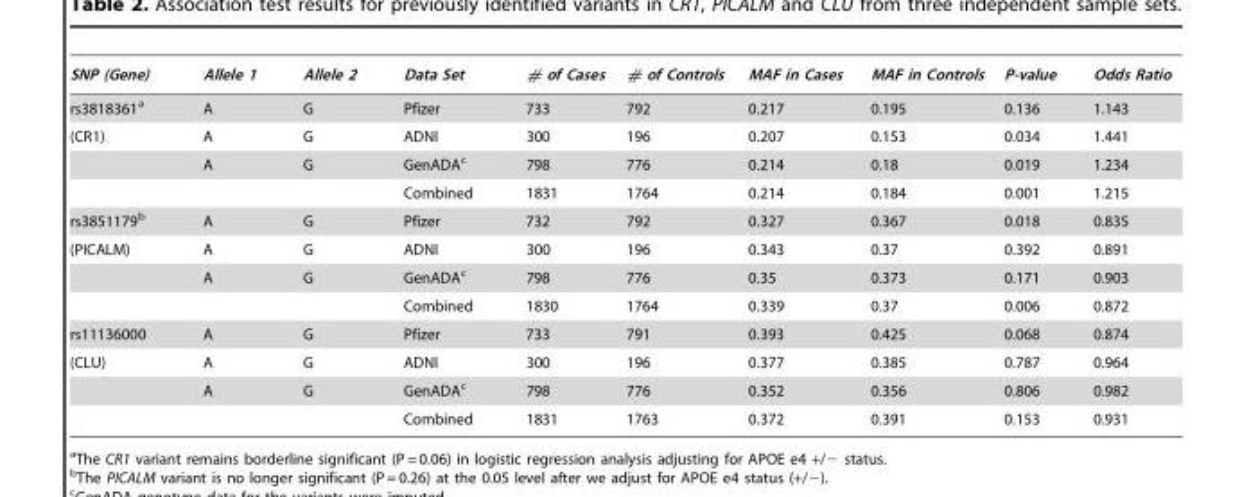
<table><thead><tr><td>SNP (Gene)</td><td>Allele 1</td><td>Allele 2</td><td>Data Set</td><td># of Cases</td><td># of Controls</td><td>MAF in Cases</td><td>MAF in Controls</td><td>P-value</td><td>Odds Ratio</td></tr></thead><tbody><tr><td>rs3818361<sup>a</sup></td><td>A</td><td>G</td><td>Pfizer</td><td>733</td><td>792</td><td>0.217</td><td>0.195</td><td>0.136</td><td>1.143</td></tr><tr><td rowspan="3">(CR1)</td><td>A</td><td>G</td><td>ADNI</td><td>300</td><td>196</td><td>0.207</td><td>0.153</td><td>0.034</td><td>1.441</td></tr><tr><td>A</td><td>G</td><td>GenADA<sup>c</sup></td><td>798</td><td>776</td><td>0.214</td><td>0.18</td><td>0.019</td><td>1.234</td></tr><tr><td></td><td></td><td>Combined</td><td>1831</td><td>1764</td><td>0.214</td><td>0.184</td><td>0.001</td><td>1.215</td></tr><tr><td>rs3851179<sup>b</sup></td><td>A</td><td>G</td><td>Pfizer</td><td>732</td><td>792</td><td>0.327</td><td>0.367</td><td>0.018</td><td>0.835</td></tr><tr><td rowspan="3">(PICALM)</td><td>A</td><td>G</td><td>ADNI</td><td>300</td><td>196</td><td>0.343</td><td>0.37</td><td>0.392</td><td>0.891</td></tr><tr><td>A</td><td>G</td><td>GenADA<sup>c</sup></td><td>798</td><td>776</td><td>0.35</td><td>0.373</td><td>0.171</td><td>0.903</td></tr><tr><td></td><td></td><td>Combined</td><td>1830</td><td>1764</td><td>0.339</td><td>0.37</td><td>0.006</td><td>0.872</td></tr><tr><td>rs11136000</td><td>A</td><td>G</td><td>Pfizer</td><td>733</td><td>791</td><td>0.393</td><td>0.425</td><td>0.068</td><td>0.874</td></tr><tr><td rowspan="3">(CLU)</td><td>A</td><td>G</td><td>ADNI</td><td>300</td><td>196</td><td>0.377</td><td>0.385</td><td>0.787</td><td>0.964</td></tr><tr><td>A</td><td>G</td><td>GenADA<sup>c</sup></td><td>798</td><td>776</td><td>0.352</td><td>0.356</td><td>0.806</td><td>0.982</td></tr><tr><td></td><td></td><td>Combined</td><td>1831</td><td>1763</td><td>0.372</td><td>0.391</td><td>0.153</td><td>0.931</td></tr></tbody></table>